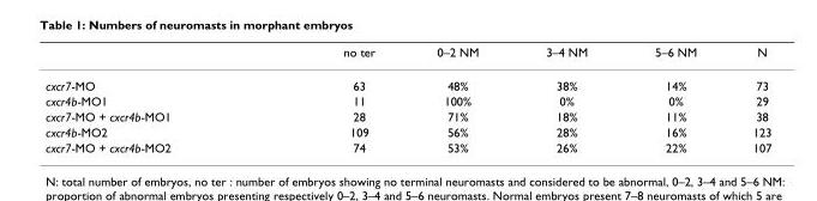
<table><thead><tr><td></td><td>no ter</td><td>0–2 NM</td><td>3–4 NM</td><td>5–6 NM</td><td>N</td></tr></thead><tbody><tr><td>cxcr7-MO</td><td>63</td><td>48%</td><td>38%</td><td>14%</td><td>73</td></tr><tr><td>cxcr4b-MO1</td><td>11</td><td>100%</td><td>0%</td><td>0%</td><td>29</td></tr><tr><td>cxcr7-MO + cxcr4b-MO1</td><td>28</td><td>71%</td><td>18%</td><td>11%</td><td>38</td></tr><tr><td>cxcr4b-MO2</td><td>109</td><td>56%</td><td>28%</td><td>16%</td><td>123</td></tr><tr><td>cxcr7-MO + cxcr4b-MO2</td><td>74</td><td>53%</td><td>26%</td><td>22%</td><td>107</td></tr></tbody></table>